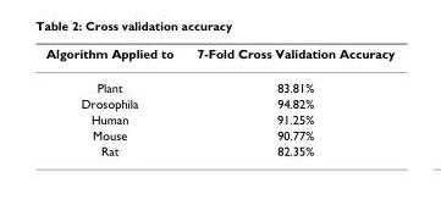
<table><thead><tr><td>Algorithm Applied to</td><td>7-Fold Cross Validation Accuracy</td></tr></thead><tbody><tr><td>Plant</td><td>83.81%</td></tr><tr><td>Drosophila</td><td>94.82%</td></tr><tr><td>Human</td><td>91.25%</td></tr><tr><td>Mouse</td><td>90.77%</td></tr><tr><td>Rat</td><td>82.35%</td></tr></tbody></table>